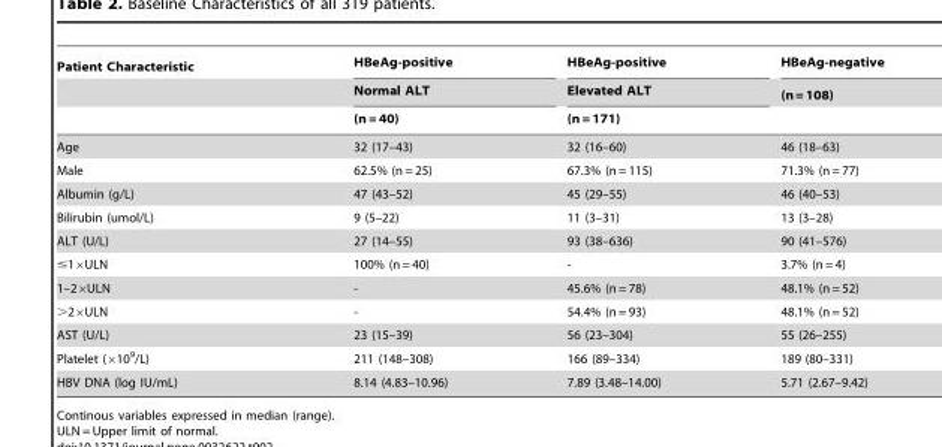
<table><thead><tr><td rowspan="3">Patient Characteristic</td><td rowspan="3">HBeAg-positive Normal ALT (n = 40)</td><td rowspan="3">HBeAg-positive Elevated ALT (n = 171)</td><td rowspan="3">HBeAg-negative (n = 108)</td></tr><tr></tr><tr></tr></thead><tbody><tr><td>Age</td><td>32 (17–43)</td><td>32 (16–60)</td><td>46 (18–63)</td></tr><tr><td>Male</td><td>62.5% (n = 25)</td><td>67.3% (n = 115)</td><td>71.3% (n = 77)</td></tr><tr><td>Albumin (g/L)</td><td>47 (43–52)</td><td>45 (29–55)</td><td>46 (40–53)</td></tr><tr><td>Bilirubin (umol/L)</td><td>9 (5–22)</td><td>11 (3–31)</td><td>13 (3–28)</td></tr><tr><td>ALT (U/L)</td><td>27 (14–55)</td><td>93 (38–636)</td><td>90 (41–576)</td></tr><tr><td>≤1×ULN</td><td>100% (n = 40)</td><td>-</td><td>3.7% (n = 4)</td></tr><tr><td>1–2×ULN</td><td>-</td><td>45.6% (n = 78)</td><td>48.1% (n = 52)</td></tr><tr><td>&gt;2×ULN</td><td>-</td><td>54.4% (n = 93)</td><td>48.1% (n = 52)</td></tr><tr><td>AST (U/L)</td><td>23 (15–39)</td><td>56 (23–304)</td><td>55 (26–255)</td></tr><tr><td>Platelet (×10<sup>9</sup>/L)</td><td>211 (148–308)</td><td>166 (89–334)</td><td>189 (80–331)</td></tr><tr><td>HBV DNA (log IU/mL)</td><td>8.14 (4.83–10.96)</td><td>7.89 (3.48–14.00)</td><td>5.71 (2.67–9.42)</td></tr></tbody></table>